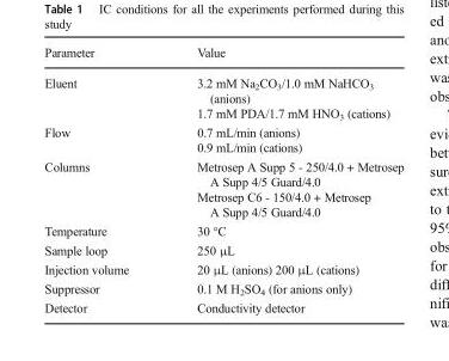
<table><thead><tr><td>Parameter</td><td>Value</td></tr></thead><tbody><tr><td>Eluent</td><td>3.2 mM Na<sub>2</sub>CO<sub>3</sub>/1.0 mM NaHCO<sub>3</sub> (anions) 1.7 mM PDA/1.7 mM HNO<sub>3</sub> (cations)</td></tr><tr><td>Flow</td><td>0.7 mL/min (anions) 0.9 mL/min (cations)</td></tr><tr><td>Columns</td><td>Metrosep A Supp 5 - 250/4.0 + Metrosep A Supp 4/5 Guard/4.0 Metrosep C6 - 150/4.0 + Metrosep A Supp 4/5 Guard/4.0</td></tr><tr><td>Temperature</td><td>30 °C</td></tr><tr><td>Sample loop</td><td>250 μL</td></tr><tr><td>Injection volume</td><td>20 μL (anions) 200 μL (cations)</td></tr><tr><td>Suppressor</td><td>0.1 M H<sub>2</sub>SO<sub>4</sub> (for anions only)</td></tr><tr><td>Detector</td><td>Conductivity detector</td></tr></tbody></table>